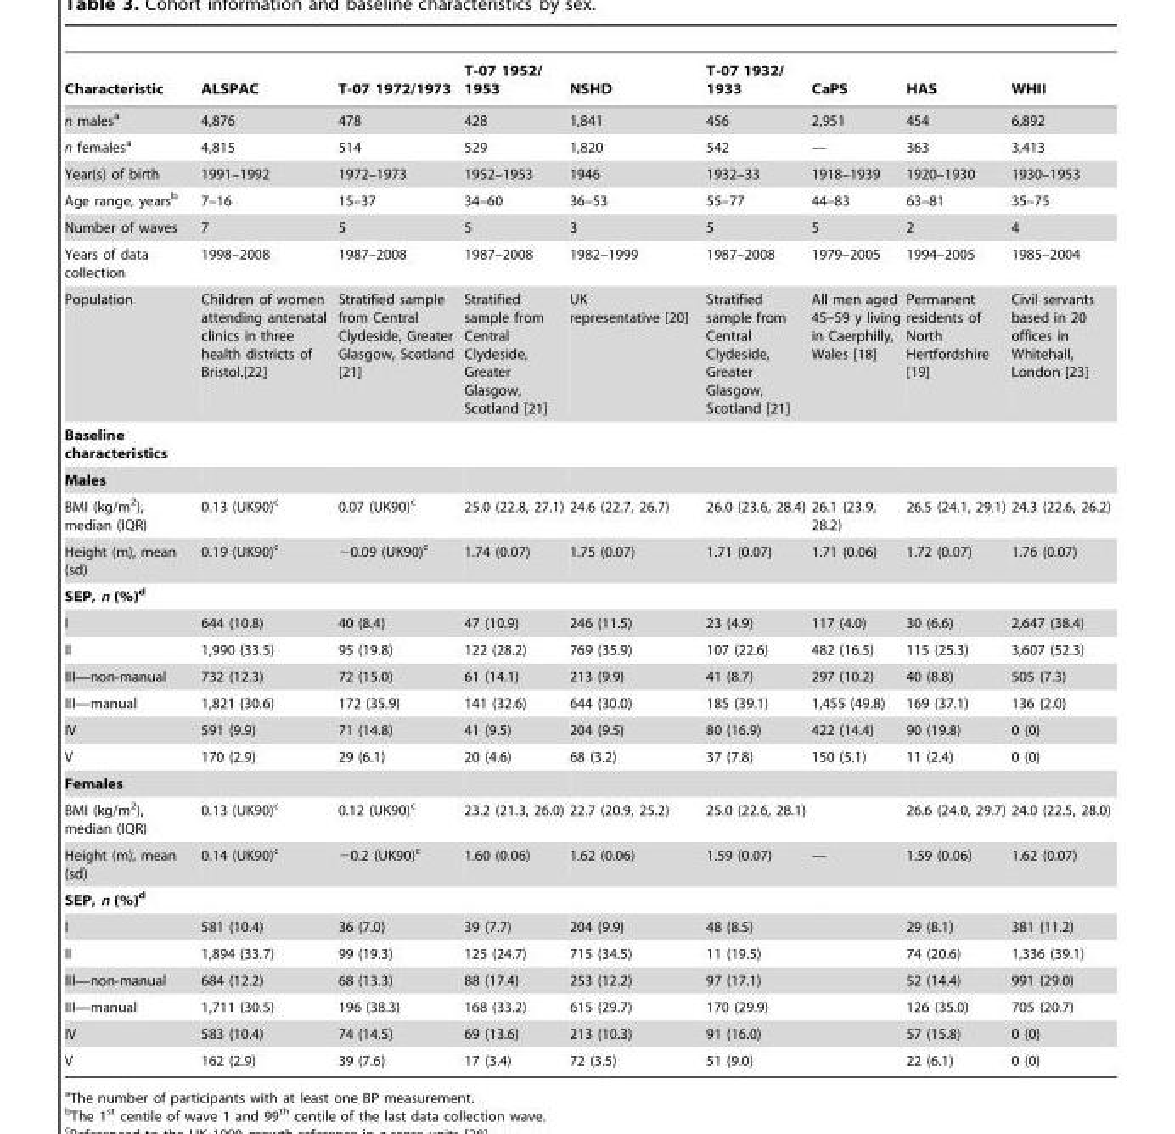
<table><thead><tr><td>Characteristic</td><td>ALSPAC</td><td>T-07 1972/1973</td><td>T-07 1952/ 1953</td><td>NSHD</td><td>T-07 1932/ 1933</td><td>CaPS</td><td>HAS</td><td>WHII</td></tr></thead><tbody><tr><td>n males<sup>a</sup></td><td>4,876</td><td>478</td><td>428</td><td>1,841</td><td>456</td><td>2,951</td><td>454</td><td>6,892</td></tr><tr><td>n females<sup>a</sup></td><td>4,815</td><td>514</td><td>529</td><td>1,820</td><td>542</td><td>—</td><td>363</td><td>3,413</td></tr><tr><td>Year(s) of birth</td><td>1991–1992</td><td>1972–1973</td><td>1952–1953</td><td>1946</td><td>1932–33</td><td>1918–1939</td><td>1920–1930</td><td>1930–1953</td></tr><tr><td>Age range, years<sup>b</sup></td><td>7–16</td><td>15–37</td><td>34–60</td><td>36–53</td><td>55–77</td><td>44–83</td><td>63–81</td><td>35–75</td></tr><tr><td>Number of waves</td><td>7</td><td>5</td><td>5</td><td>3</td><td>5</td><td>5</td><td>2</td><td>4</td></tr><tr><td>Years of data collection</td><td>1998–2008</td><td>1987–2008</td><td>1987–2008</td><td>1982–1999</td><td>1987–2008</td><td>1979–2005</td><td>1994–2005</td><td>1985–2004</td></tr><tr><td>Population</td><td>Children of women attending antenatal clinics in three health districts of Bristol.[22]</td><td>Stratified sample from Central Clydeside, Greater Glasgow, Scotland [21]</td><td>Stratified sample from Central Clydeside, Greater Glasgow, Scotland [21]</td><td>UK representative [20]</td><td>Stratified sample from Central Clydeside, Greater Glasgow, Scotland [21]</td><td>All men aged 45–59 y living in Caerphilly, Wales [18]</td><td>Permanent residents of North Hertfordshire [19]</td><td>Civil servants based in 20 offices in Whitehall, London [23]</td></tr><tr><td colspan="9">Baseline characteristics</td></tr><tr><td colspan="9">Males</td></tr><tr><td>BMI (kg/m<sup>2</sup>), median (IQR)</td><td>0.13 (UK90)<sup>c</sup></td><td>0.07 (UK90)<sup>c</sup></td><td>25.0 (22.8, 27.1)</td><td>24.6 (22.7, 26.7)</td><td>26.0 (23.6, 28.4)</td><td>26.1 (23.9, 28.2)</td><td>26.5 (24.1, 29.1)</td><td>24.3 (22.6, 26.2)</td></tr><tr><td>Height (m), mean (sd)</td><td>0.19 (UK90)<sup>c</sup></td><td>−0.09 (UK90)<sup>c</sup></td><td>1.74 (0.07)</td><td>1.75 (0.07)</td><td>1.71 (0.07)</td><td>1.71 (0.06)</td><td>1.72 (0.07)</td><td>1.76 (0.07)</td></tr><tr><td colspan="9">SEP, n (%)d</td></tr><tr><td>I</td><td>644 (10.8)</td><td>40 (8.4)</td><td>47 (10.9)</td><td>246 (11.5)</td><td>23 (4.9)</td><td>117 (4.0)</td><td>30 (6.6)</td><td>2,647 (38.4)</td></tr><tr><td>II</td><td>1,990 (33.5)</td><td>95 (19.8)</td><td>122 (28.2)</td><td>769 (35.9)</td><td>107 (22.6)</td><td>482 (16.5)</td><td>115 (25.3)</td><td>3,607 (52.3)</td></tr><tr><td>III—non-manual</td><td>732 (12.3)</td><td>72 (15.0)</td><td>61 (14.1)</td><td>213 (9.9)</td><td>41 (8.7)</td><td>297 (10.2)</td><td>40 (8.8)</td><td>505 (7.3)</td></tr><tr><td>III—manual</td><td>1,821 (30.6)</td><td>172 (35.9)</td><td>141 (32.6)</td><td>644 (30.0)</td><td>185 (39.1)</td><td>1,455 (49.8)</td><td>169 (37.1)</td><td>136 (2.0)</td></tr><tr><td>IV</td><td>591 (9.9)</td><td>71 (14.8)</td><td>41 (9.5)</td><td>204 (9.5)</td><td>80 (16.9)</td><td>422 (14.4)</td><td>90 (19.8)</td><td>0 (0)</td></tr><tr><td>V</td><td>170 (2.9)</td><td>29 (6.1)</td><td>20 (4.6)</td><td>68 (3.2)</td><td>37 (7.8)</td><td>150 (5.1)</td><td>11 (2.4)</td><td>0 (0)</td></tr><tr><td colspan="9">Females</td></tr><tr><td>BMI (kg/m<sup>2</sup>), median (IQR)</td><td>0.13 (UK90)<sup>c</sup></td><td>0.12 (UK90)<sup>c</sup></td><td>23.2 (21.3, 26.0)</td><td>22.7 (20.9, 25.2)</td><td>25.0 (22.6, 28.1)</td><td></td><td>26.6 (24.0, 29.7)</td><td>24.0 (22.5, 28.0)</td></tr><tr><td>Height (m), mean (sd)</td><td>0.14 (UK90)<sup>c</sup></td><td>−0.2 (UK90)<sup>c</sup></td><td>1.60 (0.06)</td><td>1.62 (0.06)</td><td>1.59 (0.07)</td><td>—</td><td>1.59 (0.06)</td><td>1.62 (0.07)</td></tr><tr><td colspan="9">SEP, n (%)d</td></tr><tr><td>I</td><td>581 (10.4)</td><td>36 (7.0)</td><td>39 (7.7)</td><td>204 (9.9)</td><td>48 (8.5)</td><td></td><td>29 (8.1)</td><td>381 (11.2)</td></tr><tr><td>II</td><td>1,894 (33.7)</td><td>99 (19.3)</td><td>125 (24.7)</td><td>715 (34.5)</td><td>11 (19.5)</td><td></td><td>74 (20.6)</td><td>1,336 (39.1)</td></tr><tr><td>III—non-manual</td><td>684 (12.2)</td><td>68 (13.3)</td><td>88 (17.4)</td><td>253 (12.2)</td><td>97 (17.1)</td><td></td><td>52 (14.4)</td><td>991 (29.0)</td></tr><tr><td>III—manual</td><td>1,711 (30.5)</td><td>196 (38.3)</td><td>168 (33.2)</td><td>615 (29.7)</td><td>170 (29.9)</td><td></td><td>126 (35.0)</td><td>705 (20.7)</td></tr><tr><td>IV</td><td>583 (10.4)</td><td>74 (14.5)</td><td>69 (13.6)</td><td>213 (10.3)</td><td>91 (16.0)</td><td></td><td>57 (15.8)</td><td>0 (0)</td></tr><tr><td>V</td><td>162 (2.9)</td><td>39 (7.6)</td><td>17 (3.4)</td><td>72 (3.5)</td><td>51 (9.0)</td><td></td><td>22 (6.1)</td><td>0 (0)</td></tr></tbody></table>